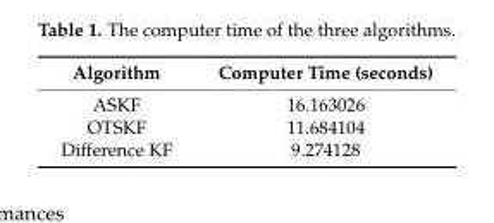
<table><thead><tr><td>Algorithm</td><td>Computer Time (seconds)</td></tr></thead><tbody><tr><td>ASKF</td><td>16.163026</td></tr><tr><td>OTSKF</td><td>11.684104</td></tr><tr><td>Difference KF</td><td>9.274128</td></tr></tbody></table>